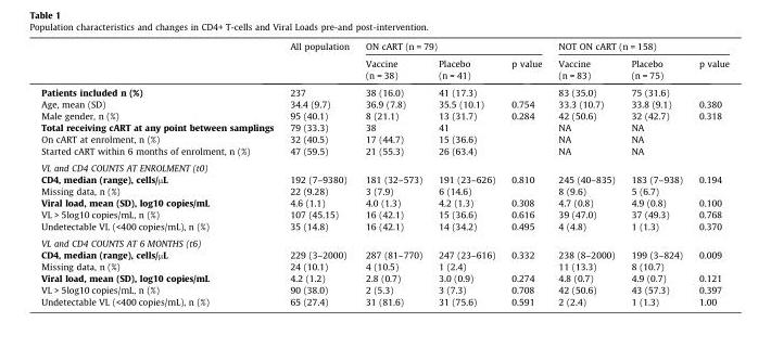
<table><thead><tr><td rowspan="2"></td><td rowspan="2">All population</td><td colspan="3">ON cART (n = 79)</td><td colspan="3">NOT ON cART (n = 158)</td></tr><tr><td>Vaccine (n = 38)</td><td>Placebo (n = 41)</td><td>p value</td><td>Vaccine (n = 83)</td><td>Placebo (n = 75)</td><td>p value</td></tr></thead><tbody><tr><td>Patients included n (%)</td><td>237</td><td>38 (16.0)</td><td>41 (17.3)</td><td></td><td>83 (35.0)</td><td>75 (31.6)</td><td></td></tr><tr><td>Age, mean (SD)</td><td>34.4 (9.7)</td><td>36.9 (7.8)</td><td>35.5 (10.1)</td><td>0.754</td><td>33.3 (10.7)</td><td>33.8 (9.1)</td><td>0.380</td></tr><tr><td>Male gender, n (%)</td><td>95 (40.1)</td><td>8 (21.1)</td><td>13 (31.7)</td><td>0.284</td><td>42 (50.6)</td><td>32 (42.7)</td><td>0.318</td></tr><tr><td>Total receiving cART at any point between samplings</td><td>79 (33.3)</td><td>38</td><td>41</td><td></td><td>NA</td><td>NA</td><td></td></tr><tr><td>On cART at enrolment, n (%)</td><td>32 (40.5)</td><td>17 (44.7)</td><td>15 (36.6)</td><td></td><td>NA</td><td>NA</td><td></td></tr><tr><td>Started cART within 6 months of enrolment, n (%)</td><td>47 (59.5)</td><td>21 (55.3)</td><td>26 (63.4)</td><td></td><td>NA</td><td>NA</td><td></td></tr><tr><td colspan="8">VL and CD4 COUNTS AT ENROLMENT (t0)</td></tr><tr><td>CD4, median (range), cells/µL</td><td>192 (7–9380)</td><td>181 (32–573)</td><td>191 (23–626)</td><td>0.810</td><td>245 (40–835)</td><td>183 (7–938)</td><td>0.194</td></tr><tr><td>Missing data, n (%)</td><td>22 (9.28)</td><td>3 (7.9)</td><td>6 (14.6)</td><td></td><td>8 (9.6)</td><td>5 (6.7)</td><td></td></tr><tr><td>Viral load, mean (SD), log10 copies/mL</td><td>4.6 (1.1)</td><td>4.0 (1.3)</td><td>4.2 (1.3)</td><td>0.308</td><td>4.7 (0.8)</td><td>4.9 (0.8)</td><td>0.100</td></tr><tr><td>VL &gt; 5log10 copies/mL, n (%)</td><td>107 (45.15)</td><td>16 (42.1)</td><td>15 (36.6)</td><td>0.616</td><td>39 (47.0)</td><td>37 (49.3)</td><td>0.768</td></tr><tr><td>Undetectable VL (&lt;400 copies/mL), n (%)</td><td>35 (14.8)</td><td>16 (42.1)</td><td>14 (34.2)</td><td>0.495</td><td>4 (4.8)</td><td>1 (1.3)</td><td>0.370</td></tr><tr><td colspan="8">VL and CD4 COUNTS AT 6 MONTHS (t6)</td></tr><tr><td>CD4, median (range), cells/µL</td><td>229 (3–2000)</td><td>287 (81–770)</td><td>247 (23–616)</td><td>0.332</td><td>238 (8–2000)</td><td>199 (3–824)</td><td>0.009</td></tr><tr><td>Missing data, n (%)</td><td>24 (10.1)</td><td>4 (10.5)</td><td>1 (2.4)</td><td></td><td>11 (13.3)</td><td>8 (10.7)</td><td></td></tr><tr><td>Viral load, mean (SD), log10 copies/mL</td><td>4.2 (1.2)</td><td>2.8 (0.7)</td><td>3.0 (0.9)</td><td>0.274</td><td>4.8 (0.7)</td><td>4.9 (0.7)</td><td>0.121</td></tr><tr><td>VL &gt; 5log10 copies/mL, n (%)</td><td>90 (38.0)</td><td>2 (5.3)</td><td>3 (7.3)</td><td>0.708</td><td>42 (50.6)</td><td>43 (57.3)</td><td>0.397</td></tr><tr><td>Undetectable VL (&lt;400 copies/mL), n (%)</td><td>65 (27.4)</td><td>31 (81.6)</td><td>31 (75.6)</td><td>0.591</td><td>2 (2.4)</td><td>1 (1.3)</td><td>1.00</td></tr></tbody></table>